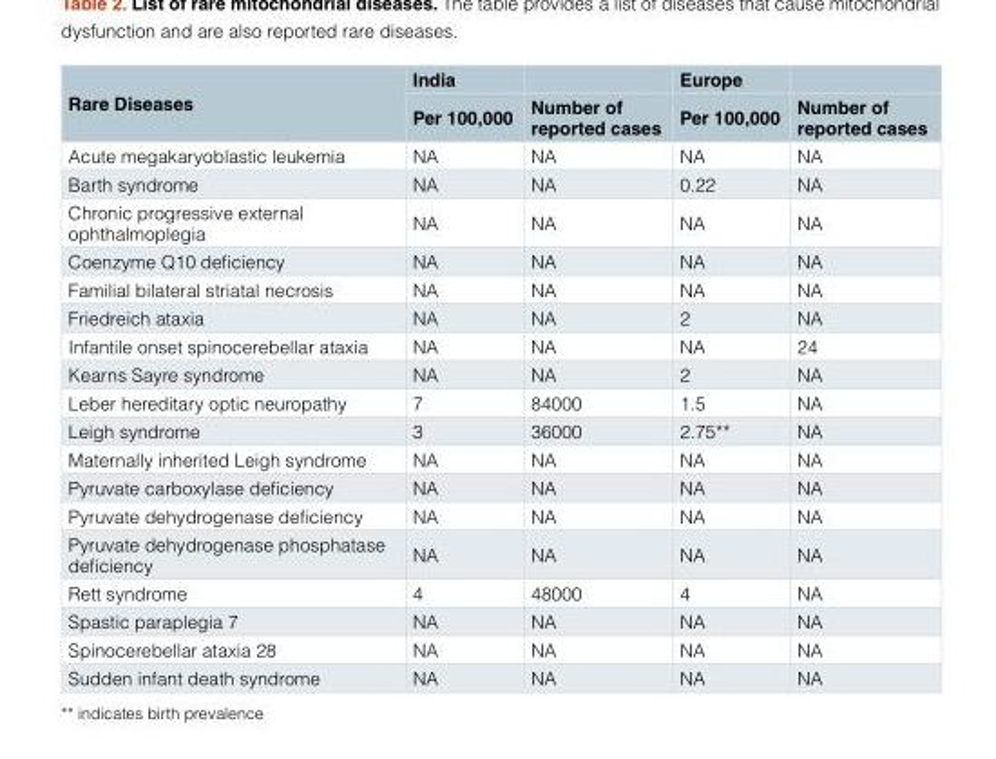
<table><thead><tr><td rowspan="2">Rare Diseases</td><td rowspan="2">India Per 100,000</td><td rowspan="2">Number of reported cases</td><td rowspan="2">Europe Per 100,000</td><td rowspan="2">Number of reported cases</td></tr><tr></tr></thead><tbody><tr><td>Acute megakaryoblastic leukemia</td><td>NA</td><td>NA</td><td>NA</td><td>NA</td></tr><tr><td>Barth syndrome</td><td>NA</td><td>NA</td><td>0.22</td><td>NA</td></tr><tr><td>Chronic progressive external ophthalmoplegia</td><td>NA</td><td>NA</td><td>NA</td><td>NA</td></tr><tr><td>Coenzyme Q10 deficiency</td><td>NA</td><td>NA</td><td>NA</td><td>NA</td></tr><tr><td>Familial bilateral striatal necrosis</td><td>NA</td><td>NA</td><td>NA</td><td>NA</td></tr><tr><td>Friedreich ataxia</td><td>NA</td><td>NA</td><td>2</td><td>NA</td></tr><tr><td>Infantile onset spinocerebellar ataxia</td><td>NA</td><td>NA</td><td>NA</td><td>24</td></tr><tr><td>Kearns Sayre syndrome</td><td>NA</td><td>NA</td><td>2</td><td>NA</td></tr><tr><td>Leber hereditary optic neuropathy</td><td>7</td><td>84000</td><td>1.5</td><td>NA</td></tr><tr><td>Leigh syndrome</td><td>3</td><td>36000</td><td>2.75**</td><td>NA</td></tr><tr><td>Maternally inherited Leigh syndrome</td><td>NA</td><td>NA</td><td>NA</td><td>NA</td></tr><tr><td>Pyruvate carboxylase deficiency</td><td>NA</td><td>NA</td><td>NA</td><td>NA</td></tr><tr><td>Pyruvate dehydrogenase deficiency</td><td>NA</td><td>NA</td><td>NA</td><td>NA</td></tr><tr><td>Pyruvate dehydrogenase phosphatase deficiency</td><td>NA</td><td>NA</td><td>NA</td><td>NA</td></tr><tr><td>Rett syndrome</td><td>4</td><td>48000</td><td>4</td><td>NA</td></tr><tr><td>Spastic paraplegia 7</td><td>NA</td><td>NA</td><td>NA</td><td>NA</td></tr><tr><td>Spinocerebellar ataxia 28</td><td>NA</td><td>NA</td><td>NA</td><td>NA</td></tr><tr><td>Sudden infant death syndrome</td><td>NA</td><td>NA</td><td>NA</td><td>NA</td></tr></tbody></table>